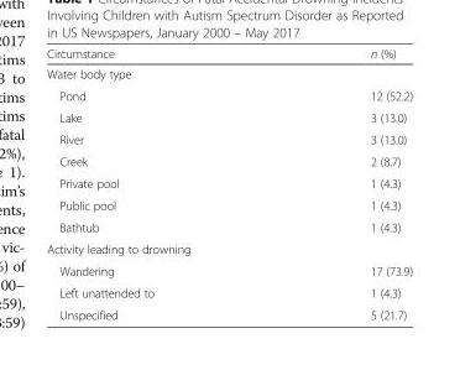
<table><thead><tr><td>Circumstance</td><td>n (%)</td></tr></thead><tbody><tr><td colspan="2">Water body type</td></tr><tr><td>Pond</td><td>12 (52.2)</td></tr><tr><td>Lake</td><td>3 (13.0)</td></tr><tr><td>River</td><td>3 (13.0)</td></tr><tr><td>Creek</td><td>2 (8.7)</td></tr><tr><td>Private pool</td><td>1 (4.3)</td></tr><tr><td>Public pool</td><td>1 (4.3)</td></tr><tr><td>Bathtub</td><td>1 (4.3)</td></tr><tr><td colspan="2">Activity leading to drowning</td></tr><tr><td>Wandering</td><td>17 (73.9)</td></tr><tr><td>Left unattended to</td><td>1 (4.3)</td></tr><tr><td>Unspecified</td><td>5 (21.7)</td></tr></tbody></table>